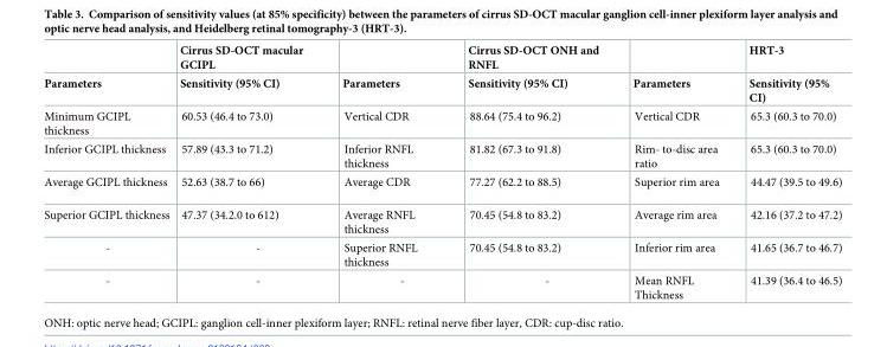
<table><thead><tr><td rowspan="2">Parameters</td><td rowspan="2">Cirrus SD-OCT macular GCIPL Sensitivity (95% CI)</td><td rowspan="2">Parameters</td><td rowspan="2">Cirrus SD-OCT ONH and RNFL Sensitivity (95% CI)</td><td rowspan="2">Parameters</td><td rowspan="2">HRT-3 Sensitivity (95% CI)</td></tr><tr></tr></thead><tbody><tr><td>Minimum GCIPL thickness</td><td>60.53 (46.4 to 73.0)</td><td>Vertical CDR</td><td>88.64 (75.4 to 96.2)</td><td>Vertical CDR</td><td>65.3 (60.3 to 70.0)</td></tr><tr><td>Inferior GCIPL thickness</td><td>57.89 (43.3 to 71.2)</td><td>Inferior RNFL thickness</td><td>81.82 (67.3 to 91.8)</td><td>Rim- to-disc area ratio</td><td>65.3 (60.3 to 70.0)</td></tr><tr><td>Average GCIPL thickness</td><td>52.63 (38.7 to 66)</td><td>Average CDR</td><td>77.27 (62.2 to 88.5)</td><td>Superior rim area</td><td>44.47 (39.5 to 49.6)</td></tr><tr><td>Superior GCIPL thickness</td><td>47.37 (34.2.0 to 612)</td><td>Average RNFL thickness</td><td>70.45 (54.8 to 83.2)</td><td>Average rim area</td><td>42.16 (37.2 to 47.2)</td></tr><tr><td>-</td><td>-</td><td>Superior RNFL thickness</td><td>70.45 (54.8 to 83.2)</td><td>Inferior rim area</td><td>41.65 (36.7 to 46.7)</td></tr><tr><td>-</td><td>-</td><td>-</td><td>-</td><td>Mean RNFL Thickness</td><td>41.39 (36.4 to 46.5)</td></tr></tbody></table>